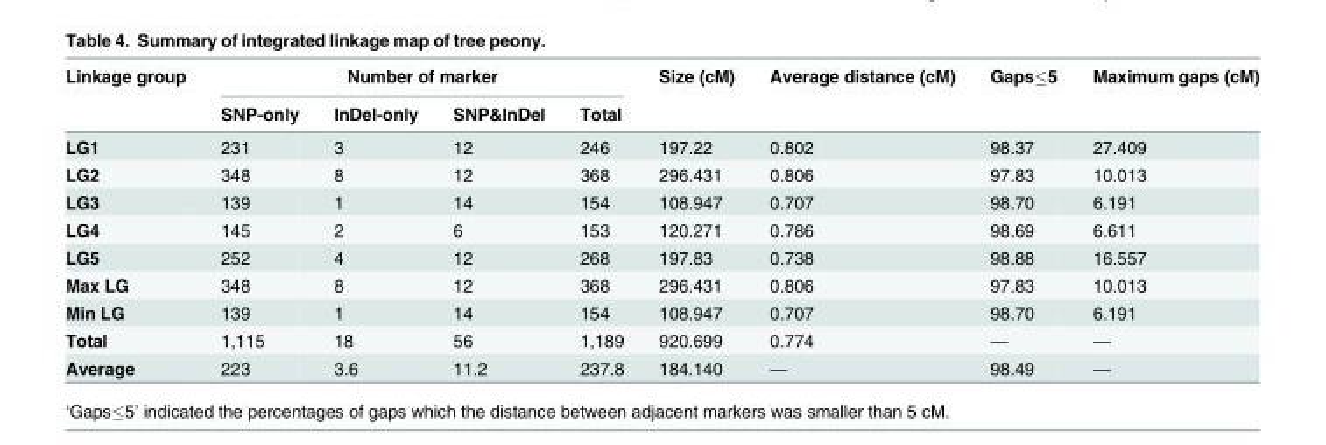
<table><thead><tr><td rowspan="2">Linkage group</td><td colspan="4">Number of marker</td><td rowspan="2">Size (cM)</td><td rowspan="2">Average distance (cM)</td><td rowspan="2">Gaps≤5</td><td rowspan="2">Maximum gaps (cM)</td></tr><tr><td>SNP-only</td><td>InDel-only</td><td>SNP&amp;InDel</td><td>Total</td></tr></thead><tbody><tr><td>LG1</td><td>231</td><td>3</td><td>12</td><td>246</td><td>197.22</td><td>0.802</td><td>98.37</td><td>27.409</td></tr><tr><td>LG2</td><td>348</td><td>8</td><td>12</td><td>368</td><td>296.431</td><td>0.806</td><td>97.83</td><td>10.013</td></tr><tr><td>LG3</td><td>139</td><td>1</td><td>14</td><td>154</td><td>108.947</td><td>0.707</td><td>98.70</td><td>6.191</td></tr><tr><td>LG4</td><td>145</td><td>2</td><td>6</td><td>153</td><td>120.271</td><td>0.786</td><td>98.69</td><td>6.611</td></tr><tr><td>LG5</td><td>252</td><td>4</td><td>12</td><td>268</td><td>197.83</td><td>0.738</td><td>98.88</td><td>16.557</td></tr><tr><td>Max LG</td><td>348</td><td>8</td><td>12</td><td>368</td><td>296.431</td><td>0.806</td><td>97.83</td><td>10.013</td></tr><tr><td>Min LG</td><td>139</td><td>1</td><td>14</td><td>154</td><td>108.947</td><td>0.707</td><td>98.70</td><td>6.191</td></tr><tr><td>Total</td><td>1,115</td><td>18</td><td>56</td><td>1,189</td><td>920.699</td><td>0.774</td><td>—</td><td>—</td></tr><tr><td>Average</td><td>223</td><td>3.6</td><td>11.2</td><td>237.8</td><td>184.140</td><td>—</td><td>98.49</td><td>—</td></tr></tbody></table>